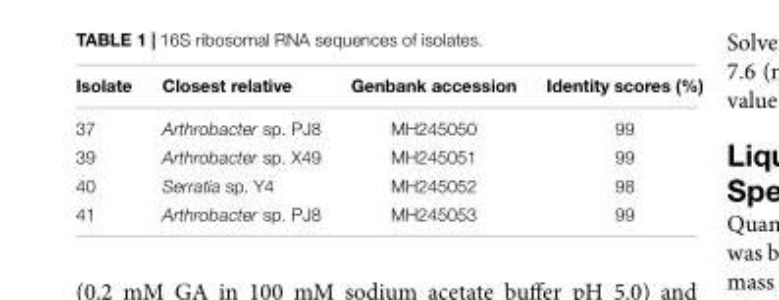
<table><thead><tr><td>Isolate</td><td>Closest relative</td><td>Genbank accession</td><td>Identity scores (%)</td></tr></thead><tbody><tr><td>37</td><td>Arthrobacter sp. PJ8</td><td>MH245050</td><td>99</td></tr><tr><td>39</td><td>Arthrobacter sp. X49</td><td>MH245051</td><td>99</td></tr><tr><td>40</td><td>Serratia sp. Y4</td><td>MH245052</td><td>98</td></tr><tr><td>41</td><td>Arthrobacter sp. PJ8</td><td>MH245053</td><td>99</td></tr></tbody></table>